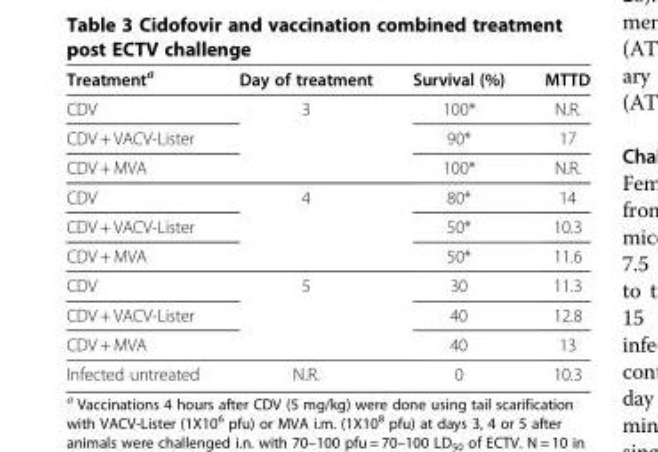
<table><thead><tr><td>Treatment<sup>a</sup></td><td>Day of treatment</td><td>Survival (%)</td><td>MTTD</td></tr></thead><tbody><tr><td>CDV</td><td rowspan="3">3</td><td>100*</td><td>N.R.</td></tr><tr><td>CDV + VACV-Lister</td><td>90*</td><td>17</td></tr><tr><td>CDV + MVA</td><td>100*</td><td>N.R.</td></tr><tr><td>CDV</td><td rowspan="3">4</td><td>80*</td><td>14</td></tr><tr><td>CDV + VACV-Lister</td><td>50*</td><td>10.3</td></tr><tr><td>CDV + MVA</td><td>50*</td><td>11.6</td></tr><tr><td>CDV</td><td rowspan="3">5</td><td>30</td><td>11.3</td></tr><tr><td>CDV + VACV-Lister</td><td>40</td><td>12.8</td></tr><tr><td>CDV + MVA</td><td>40</td><td>13</td></tr><tr><td>Infected untreated</td><td>N.R.</td><td>0</td><td>10.3</td></tr></tbody></table>